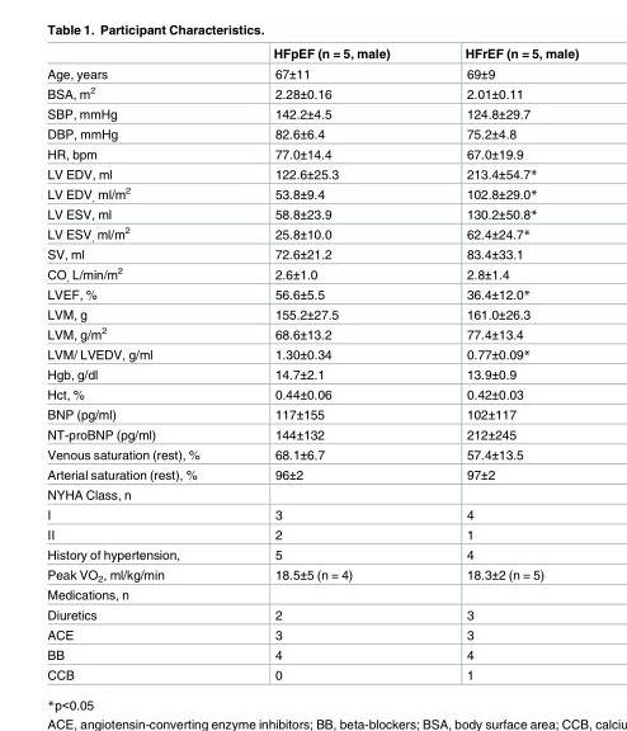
<table><thead><tr><td></td><td>HFpEF (n = 5, male)</td><td>HFrEF (n = 5, male)</td></tr></thead><tbody><tr><td>Age, years</td><td>67±11</td><td>69±9</td></tr><tr><td>BSA, m<sup>2</sup></td><td>2.28±0.16</td><td>2.01±0.11</td></tr><tr><td>SBP, mmHg</td><td>142.2±4.5</td><td>124.8±29.7</td></tr><tr><td>DBP, mmHg</td><td>82.6±6.4</td><td>75.2±4.8</td></tr><tr><td>HR, bpm</td><td>77.0±14.4</td><td>67.0±19.9</td></tr><tr><td>LV EDV, ml</td><td>122.6±25.3</td><td>213.4±54.7*</td></tr><tr><td>LV EDV<sub>,</sub> ml/m<sup>2</sup></td><td>53.8±9.4</td><td>102.8±29.0*</td></tr><tr><td>LV ESV, ml</td><td>58.8±23.9</td><td>130.2±50.8*</td></tr><tr><td>LV ESV<sub>,</sub> ml/m<sup>2</sup></td><td>25.8±10.0</td><td>62.4±24.7*</td></tr><tr><td>SV, ml</td><td>72.6±21.2</td><td>83.4±33.1</td></tr><tr><td>CO<sub>,</sub> L/min/m<sup>2</sup></td><td>2.6±1.0</td><td>2.8±1.4</td></tr><tr><td>LVEF, %</td><td>56.6±5.5</td><td>36.4±12.0*</td></tr><tr><td>LVM, g</td><td>155.2±27.5</td><td>161.0±26.3</td></tr><tr><td>LVM, g/m<sup>2</sup></td><td>68.6±13.2</td><td>77.4±13.4</td></tr><tr><td>LVM/ LVEDV, g/ml</td><td>1.30±0.34</td><td>0.77±0.09*</td></tr><tr><td>Hgb, g/dl</td><td>14.7±2.1</td><td>13.9±0.9</td></tr><tr><td>Hct, %</td><td>0.44±0.06</td><td>0.42±0.03</td></tr><tr><td>BNP (pg/ml)</td><td>117±155</td><td>102±117</td></tr><tr><td>NT-proBNP (pg/ml)</td><td>144±132</td><td>212±245</td></tr><tr><td>Venous saturation (rest), %</td><td>68.1±6.7</td><td>57.4±13.5</td></tr><tr><td>Arterial saturation (rest), %</td><td>96±2</td><td>97±2</td></tr><tr><td colspan="3">NYHA Class, n</td></tr><tr><td>I</td><td>3</td><td>4</td></tr><tr><td>II</td><td>2</td><td>1</td></tr><tr><td>History of hypertension,</td><td>5</td><td>4</td></tr><tr><td>Peak VO<sub>2</sub>, ml/kg/min</td><td>18.5±5 (n = 4)</td><td>18.3±2 (n = 5)</td></tr><tr><td colspan="3">Medications, n</td></tr><tr><td>Diuretics</td><td>2</td><td>3</td></tr><tr><td>ACE</td><td>3</td><td>3</td></tr><tr><td>BB</td><td>4</td><td>4</td></tr><tr><td>CCB</td><td>0</td><td>1</td></tr></tbody></table>